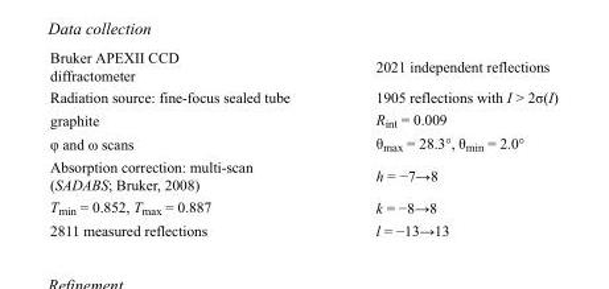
<table><tbody><tr><td>Bruker APEXII CCD diffractometer</td><td>2021 independent reflections</td></tr><tr><td>Radiation source: fine-focus sealed tube</td><td>1905 reflections with I &gt; 2σ(I)</td></tr><tr><td>graphite</td><td>R<sub>int</sub> = 0.009</td></tr><tr><td>φ and ω scans</td><td>θ<sub>max</sub> = 28.3°, θ<sub>min</sub> = 2.0°</td></tr><tr><td>Absorption correction: multi-scan (SADABS; Bruker, 2008)</td><td>h = −7→8</td></tr><tr><td>T<sub>min</sub> = 0.852, T<sub>max</sub> = 0.887</td><td>k = −8→8</td></tr><tr><td>2811 measured reflections</td><td>l = −13→13</td></tr></tbody></table>